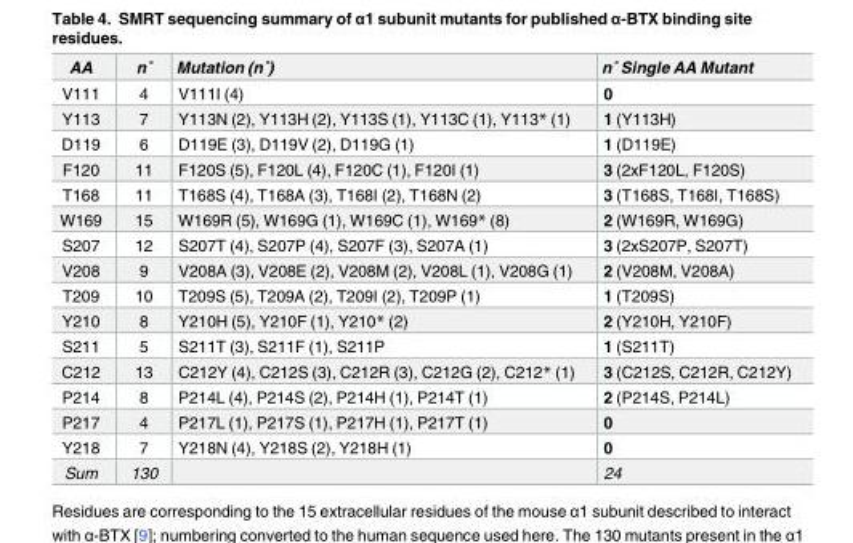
<table><thead><tr><td>AA</td><td>n˚</td><td>Mutation (n˚)</td><td>n˚ Single AA Mutant</td></tr></thead><tbody><tr><td>V111</td><td>4</td><td>V111I (4)</td><td>0</td></tr><tr><td>Y113</td><td>7</td><td>Y113N (2), Y113H (2), Y113S (1), Y113C (1), Y113* (1)</td><td>1 (Y113H)</td></tr><tr><td>D119</td><td>6</td><td>D119E (3), D119V (2), D119G (1)</td><td>1 (D119E)</td></tr><tr><td>F120</td><td>11</td><td>F120S (5), F120L (4), F120C (1), F120I (1)</td><td>3 (2xF120L, F120S)</td></tr><tr><td>T168</td><td>11</td><td>T168S (4), T168A (3), T168I (2), T168N (2)</td><td>3 (T168S, T168I, T168S)</td></tr><tr><td>W169</td><td>15</td><td>W169R (5), W169G (1), W169C (1), W169* (8)</td><td>2 (W169R, W169G)</td></tr><tr><td>S207</td><td>12</td><td>S207T (4), S207P (4), S207F (3), S207A (1)</td><td>3 (2xS207P, S207T)</td></tr><tr><td>V208</td><td>9</td><td>V208A (3), V208E (2), V208M (2), V208L (1), V208G (1)</td><td>2 (V208M, V208A)</td></tr><tr><td>T209</td><td>10</td><td>T209S (5), T209A (2), T209I (2), T209P (1)</td><td>1 (T209S)</td></tr><tr><td>Y210</td><td>8</td><td>Y210H (5), Y210F (1), Y210* (2)</td><td>2 (Y210H, Y210F)</td></tr><tr><td>S211</td><td>5</td><td>S211T (3), S211F (1), S211P</td><td>1 (S211T)</td></tr><tr><td>C212</td><td>13</td><td>C212Y (4), C212S (3), C212R (3), C212G (2), C212* (1)</td><td>3 (C212S, C212R, C212Y)</td></tr><tr><td>P214</td><td>8</td><td>P214L (4), P214S (2), P214H (1), P214T (1)</td><td>2 (P214S, P214L)</td></tr><tr><td>P217</td><td>4</td><td>P217L (1), P217S (1), P217H (1), P217T (1)</td><td>0</td></tr><tr><td>Y218</td><td>7</td><td>Y218N (4), Y218S (2), Y218H (1)</td><td>0</td></tr><tr><td>Sum</td><td>130</td><td></td><td>24</td></tr></tbody></table>